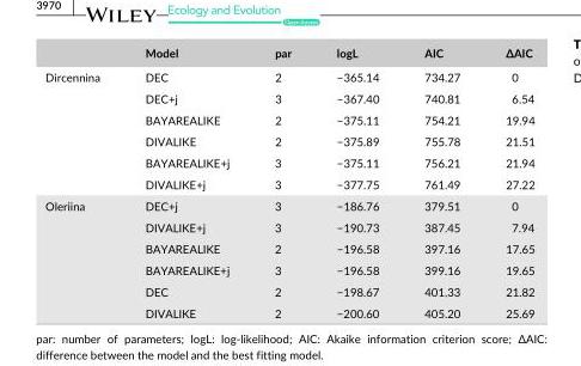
<table><thead><tr><td></td><td>Model</td><td>par</td><td>logL</td><td>AIC</td><td>∆AIC</td></tr></thead><tbody><tr><td rowspan="6">Dircennina</td><td>DEC</td><td>2</td><td>−365.14</td><td>734.27</td><td>0</td></tr><tr><td>DEC+j</td><td>3</td><td>−367.40</td><td>740.81</td><td>6.54</td></tr><tr><td>BAYAREALIKE</td><td>2</td><td>−375.11</td><td>754.21</td><td>19.94</td></tr><tr><td>DIVALIKE</td><td>2</td><td>−375.89</td><td>755.78</td><td>21.51</td></tr><tr><td>BAYAREALIKE+j</td><td>3</td><td>−375.11</td><td>756.21</td><td>21.94</td></tr><tr><td>DIVALIKE+j</td><td>3</td><td>−377.75</td><td>761.49</td><td>27.22</td></tr><tr><td rowspan="6">Oleriina</td><td>DEC+j</td><td>3</td><td>−186.76</td><td>379.51</td><td>0</td></tr><tr><td>DIVALIKE+j</td><td>3</td><td>−190.73</td><td>387.45</td><td>7.94</td></tr><tr><td>BAYAREALIKE</td><td>2</td><td>−196.58</td><td>397.16</td><td>17.65</td></tr><tr><td>BAYAREALIKE+j</td><td>3</td><td>−196.58</td><td>399.16</td><td>19.65</td></tr><tr><td>DEC</td><td>2</td><td>−198.67</td><td>401.33</td><td>21.82</td></tr><tr><td>DIVALIKE</td><td>2</td><td>−200.60</td><td>405.20</td><td>25.69</td></tr></tbody></table>